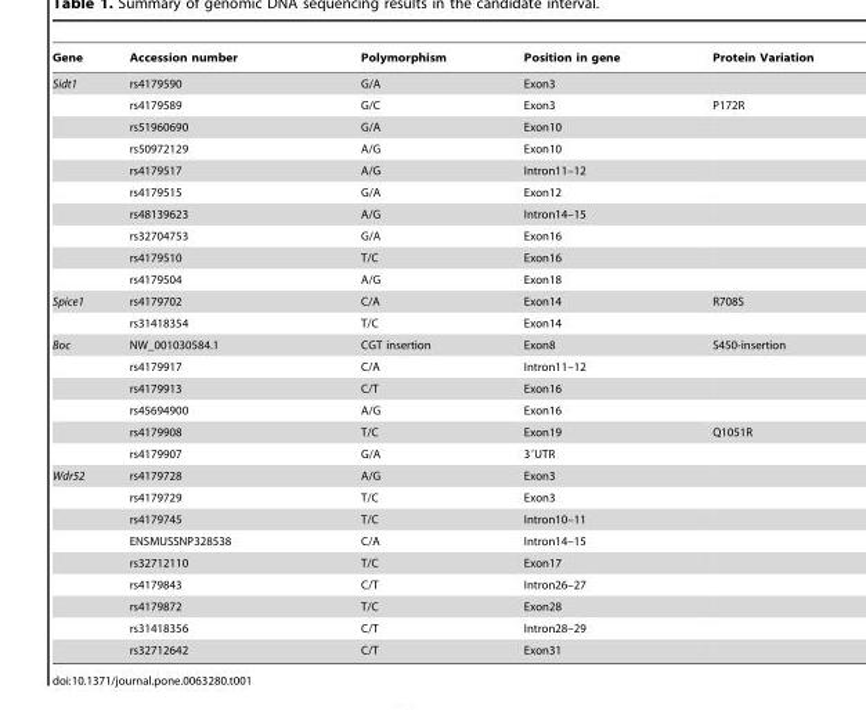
<table><thead><tr><td>Gene</td><td>Accession number</td><td>Polymorphism</td><td>Position in gene</td><td>Protein Variation</td></tr></thead><tbody><tr><td rowspan="10">Sidt1</td><td>rs4179590</td><td>G/A</td><td>Exon3</td><td></td></tr><tr><td>rs4179589</td><td>G/C</td><td>Exon3</td><td>P172R</td></tr><tr><td>rs51960690</td><td>G/A</td><td>Exon10</td><td></td></tr><tr><td>rs50972129</td><td>A/G</td><td>Exon10</td><td></td></tr><tr><td>rs4179517</td><td>A/G</td><td>Intron11–12</td><td></td></tr><tr><td>rs4179515</td><td>G/A</td><td>Exon12</td><td></td></tr><tr><td>rs48139623</td><td>A/G</td><td>Intron14–15</td><td></td></tr><tr><td>rs32704753</td><td>G/A</td><td>Exon16</td><td></td></tr><tr><td>rs4179510</td><td>T/C</td><td>Exon16</td><td></td></tr><tr><td>rs4179504</td><td>A/G</td><td>Exon18</td><td></td></tr><tr><td rowspan="2">Spice1</td><td>rs4179702</td><td>C/A</td><td>Exon14</td><td>R708S</td></tr><tr><td>rs31418354</td><td>T/C</td><td>Exon14</td><td></td></tr><tr><td rowspan="6">Boc</td><td>NW_001030584.1</td><td>CGT insertion</td><td>Exon8</td><td>S450-insertion</td></tr><tr><td>rs4179917</td><td>C/A</td><td>Intron11–12</td><td></td></tr><tr><td>rs4179913</td><td>C/T</td><td>Exon16</td><td></td></tr><tr><td>rs45694900</td><td>A/G</td><td>Exon16</td><td></td></tr><tr><td>rs4179908</td><td>T/C</td><td>Exon19</td><td>Q1051R</td></tr><tr><td>rs4179907</td><td>G/A</td><td>3′UTR</td><td></td></tr><tr><td rowspan="9">Wdr52</td><td>rs4179728</td><td>A/G</td><td>Exon3</td><td></td></tr><tr><td>rs4179729</td><td>T/C</td><td>Exon3</td><td></td></tr><tr><td>rs4179745</td><td>T/C</td><td>Intron10–11</td><td></td></tr><tr><td>ENSMUSSNP328538</td><td>C/A</td><td>Intron14–15</td><td></td></tr><tr><td>rs32712110</td><td>T/C</td><td>Exon17</td><td></td></tr><tr><td>rs4179843</td><td>C/T</td><td>Intron26–27</td><td></td></tr><tr><td>rs4179872</td><td>T/C</td><td>Exon28</td><td></td></tr><tr><td>rs31418356</td><td>C/T</td><td>Intron28–29</td><td></td></tr><tr><td>rs32712642</td><td>C/T</td><td>Exon31</td><td></td></tr></tbody></table>